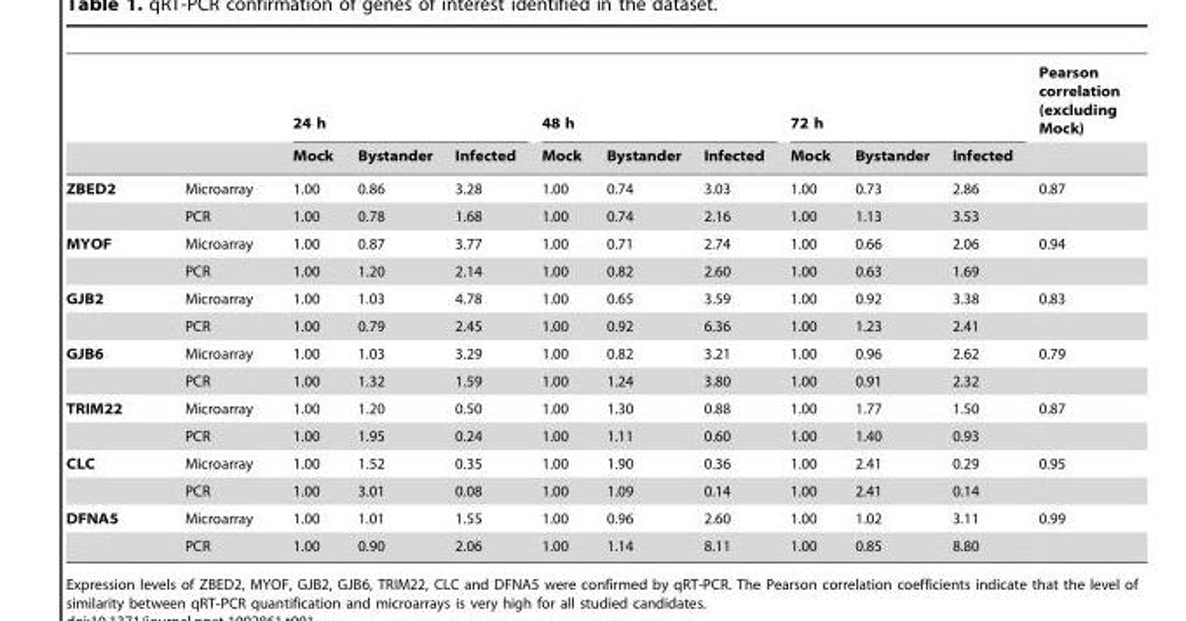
<table><thead><tr><td rowspan="2"></td><td rowspan="2"></td><td colspan="3">24 h</td><td colspan="3">48 h</td><td colspan="3">72 h</td><td rowspan="2">Pearson correlation (excluding Mock)</td></tr><tr><td>Mock</td><td>Bystander</td><td>Infected</td><td>Mock</td><td>Bystander</td><td>Infected</td><td>Mock</td><td>Bystander</td><td>Infected</td></tr></thead><tbody><tr><td rowspan="2">ZBED2</td><td>Microarray</td><td>1.00</td><td>0.86</td><td>3.28</td><td>1.00</td><td>0.74</td><td>3.03</td><td>1.00</td><td>0.73</td><td>2.86</td><td>0.87</td></tr><tr><td>PCR</td><td>1.00</td><td>0.78</td><td>1.68</td><td>1.00</td><td>0.74</td><td>2.16</td><td>1.00</td><td>1.13</td><td>3.53</td><td></td></tr><tr><td rowspan="2">MYOF</td><td>Microarray</td><td>1.00</td><td>0.87</td><td>3.77</td><td>1.00</td><td>0.71</td><td>2.74</td><td>1.00</td><td>0.66</td><td>2.06</td><td>0.94</td></tr><tr><td>PCR</td><td>1.00</td><td>1.20</td><td>2.14</td><td>1.00</td><td>0.82</td><td>2.60</td><td>1.00</td><td>0.63</td><td>1.69</td><td></td></tr><tr><td rowspan="2">GJB2</td><td>Microarray</td><td>1.00</td><td>1.03</td><td>4.78</td><td>1.00</td><td>0.65</td><td>3.59</td><td>1.00</td><td>0.92</td><td>3.38</td><td>0.83</td></tr><tr><td>PCR</td><td>1.00</td><td>0.79</td><td>2.45</td><td>1.00</td><td>0.92</td><td>6.36</td><td>1.00</td><td>1.23</td><td>2.41</td><td></td></tr><tr><td rowspan="2">GJB6</td><td>Microarray</td><td>1.00</td><td>1.03</td><td>3.29</td><td>1.00</td><td>0.82</td><td>3.21</td><td>1.00</td><td>0.96</td><td>2.62</td><td>0.79</td></tr><tr><td>PCR</td><td>1.00</td><td>1.32</td><td>1.59</td><td>1.00</td><td>1.24</td><td>3.80</td><td>1.00</td><td>0.91</td><td>2.32</td><td></td></tr><tr><td rowspan="2">TRIM22</td><td>Microarray</td><td>1.00</td><td>1.20</td><td>0.50</td><td>1.00</td><td>1.30</td><td>0.88</td><td>1.00</td><td>1.77</td><td>1.50</td><td>0.87</td></tr><tr><td>PCR</td><td>1.00</td><td>1.95</td><td>0.24</td><td>1.00</td><td>1.11</td><td>0.60</td><td>1.00</td><td>1.40</td><td>0.93</td><td></td></tr><tr><td rowspan="2">CLC</td><td>Microarray</td><td>1.00</td><td>1.52</td><td>0.35</td><td>1.00</td><td>1.90</td><td>0.36</td><td>1.00</td><td>2.41</td><td>0.29</td><td>0.95</td></tr><tr><td>PCR</td><td>1.00</td><td>3.01</td><td>0.08</td><td>1.00</td><td>1.09</td><td>0.14</td><td>1.00</td><td>2.41</td><td>0.14</td><td></td></tr><tr><td rowspan="2">DFNA5</td><td>Microarray</td><td>1.00</td><td>1.01</td><td>1.55</td><td>1.00</td><td>0.96</td><td>2.60</td><td>1.00</td><td>1.02</td><td>3.11</td><td>0.99</td></tr><tr><td>PCR</td><td>1.00</td><td>0.90</td><td>2.06</td><td>1.00</td><td>1.14</td><td>8.11</td><td>1.00</td><td>0.85</td><td>8.80</td><td></td></tr></tbody></table>